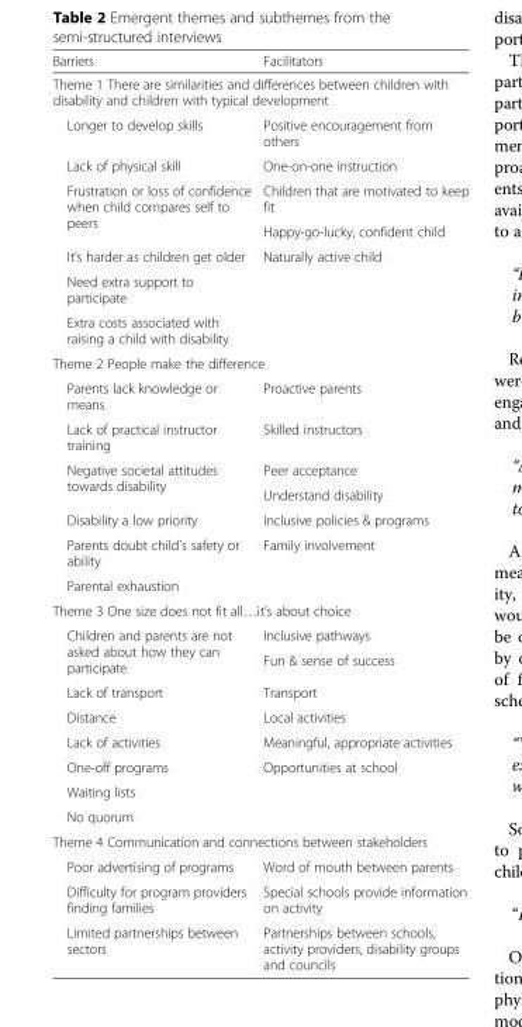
<table><thead><tr><td>Barriers</td><td>Facilitators</td></tr></thead><tbody><tr><td colspan="2">Theme 1 There are similarities and differences between children with disability and children with typical development</td></tr><tr><td>Longer to develop skills</td><td>Positive encouragement from others</td></tr><tr><td>Lack of physical skill</td><td>One-on-one instruction</td></tr><tr><td rowspan="2">Frustration or loss of confidence when child compares self to peers</td><td>Children that are motivated to keep fit</td></tr><tr><td>Happy-go-lucky, confident child</td></tr><tr><td>It’s harder as children get older</td><td>Naturally active child</td></tr><tr><td colspan="2">Need extra support to participate</td></tr><tr><td colspan="2">Extra costs associated with raising a child with disability</td></tr><tr><td colspan="2">Theme 2 People make the difference</td></tr><tr><td>Parents lack knowledge or means</td><td>Proactive parents</td></tr><tr><td>Lack of practical instructor training</td><td>Skilled instructors</td></tr><tr><td rowspan="2">Negative societal attitudes towards disability</td><td>Peer acceptance</td></tr><tr><td>Understand disability</td></tr><tr><td>Disability a low priority</td><td>Inclusive policies &amp; programs</td></tr><tr><td>Parents doubt child’s safety or ability</td><td>Family involvement</td></tr><tr><td colspan="2">Parental exhaustion</td></tr><tr><td colspan="2">Theme 3 One size does not fit all…it’s about choice</td></tr><tr><td rowspan="2">Children and parents are not asked about how they can participate</td><td>Inclusive pathways</td></tr><tr><td>Fun &amp; sense of success</td></tr><tr><td>Lack of transport</td><td>Transport</td></tr><tr><td>Distance</td><td>Local activities</td></tr><tr><td>Lack of activities</td><td>Meaningful, appropriate activities</td></tr><tr><td>One-off programs</td><td>Opportunities at school</td></tr><tr><td colspan="2">Waiting lists</td></tr><tr><td colspan="2">No quorum</td></tr><tr><td colspan="2">Theme 4 Communication and connections between stakeholders</td></tr><tr><td>Poor advertising of programs</td><td>Word of mouth between parents</td></tr><tr><td>Difficulty for program providers finding families</td><td>Special schools provide information on activity</td></tr><tr><td>Limited partnerships between sectors</td><td>Partnerships between schools, activity providers, disability groups and councils</td></tr></tbody></table>